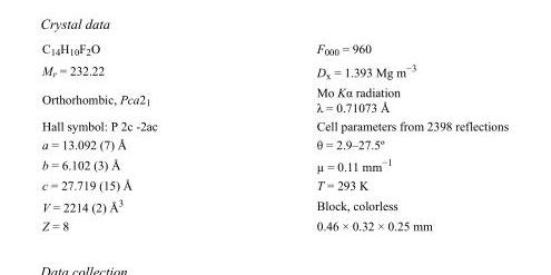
<table><tbody><tr><td>C<sub>14</sub>H<sub>10</sub>F<sub>2</sub>O</td><td>F000 = 960</td></tr><tr><td>M<sub>r</sub> = 232.22</td><td>D<sub>x</sub> = 1.393 Mg m<sup>−3</sup></td></tr><tr><td>Orthorhombic, Pca2<sub>1</sub></td><td>Mo Kα radiation λ = 0.71073 Å</td></tr><tr><td>Hall symbol: P 2c -2ac</td><td>Cell parameters from 2398 reflections</td></tr><tr><td>a = 13.092 (7) Å</td><td>θ = 2.9–27.5º</td></tr><tr><td>b = 6.102 (3) Å</td><td>µ = 0.11 mm<sup>−1</sup></td></tr><tr><td>c = 27.719 (15) Å</td><td>T = 293 K</td></tr><tr><td>V = 2214 (2) Å<sup>3</sup></td><td>Block, colorless</td></tr><tr><td>Z = 8</td><td>0.46 × 0.32 × 0.25 mm</td></tr></tbody></table>